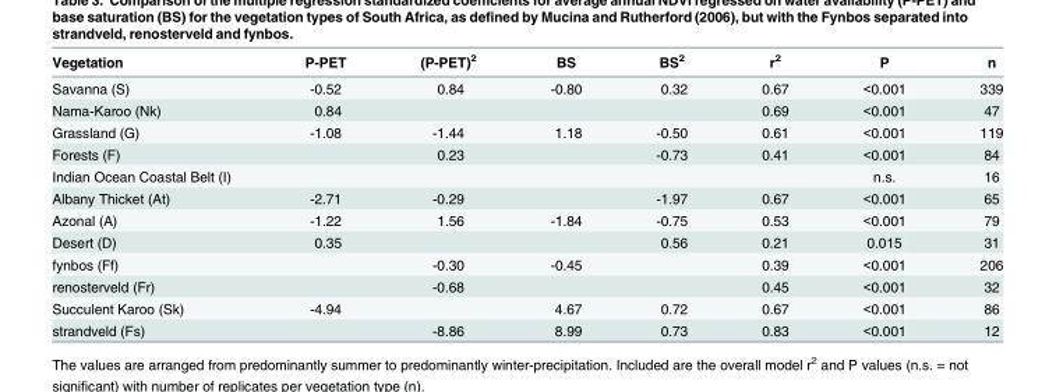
<table><thead><tr><td>Vegetation</td><td>P-PET</td><td>(P-PET)<sup>2</sup></td><td>BS</td><td>BS<sup>2</sup></td><td>r<sup>2</sup></td><td>P</td><td>n</td></tr></thead><tbody><tr><td>Savanna (S)</td><td>-0.52</td><td>0.84</td><td>-0.80</td><td>0.32</td><td>0.67</td><td>&lt;0.001</td><td>339</td></tr><tr><td>Nama-Karoo (Nk)</td><td>0.84</td><td></td><td></td><td></td><td>0.69</td><td>&lt;0.001</td><td>47</td></tr><tr><td>Grassland (G)</td><td>-1.08</td><td>-1.44</td><td>1.18</td><td>-0.50</td><td>0.61</td><td>&lt;0.001</td><td>119</td></tr><tr><td>Forests (F)</td><td></td><td>0.23</td><td></td><td>-0.73</td><td>0.41</td><td>&lt;0.001</td><td>84</td></tr><tr><td>Indian Ocean Coastal Belt (I)</td><td></td><td></td><td></td><td></td><td></td><td>n.s.</td><td>16</td></tr><tr><td>Albany Thicket (At)</td><td>-2.71</td><td>-0.29</td><td></td><td>-1.97</td><td>0.67</td><td>&lt;0.001</td><td>65</td></tr><tr><td>Azonal (A)</td><td>-1.22</td><td>1.56</td><td>-1.84</td><td>-0.75</td><td>0.53</td><td>&lt;0.001</td><td>79</td></tr><tr><td>Desert (D)</td><td>0.35</td><td></td><td></td><td>0.56</td><td>0.21</td><td>0.015</td><td>31</td></tr><tr><td>fynbos (Ff)</td><td></td><td>-0.30</td><td>-0.45</td><td></td><td>0.39</td><td>&lt;0.001</td><td>206</td></tr><tr><td>renosterveld (Fr)</td><td></td><td>-0.68</td><td></td><td></td><td>0.45</td><td>&lt;0.001</td><td>32</td></tr><tr><td>Succulent Karoo (Sk)</td><td>-4.94</td><td></td><td>4.67</td><td>0.72</td><td>0.67</td><td>&lt;0.001</td><td>86</td></tr><tr><td>strandveld (Fs)</td><td></td><td>-8.86</td><td>8.99</td><td>0.73</td><td>0.83</td><td>&lt;0.001</td><td>12</td></tr></tbody></table>